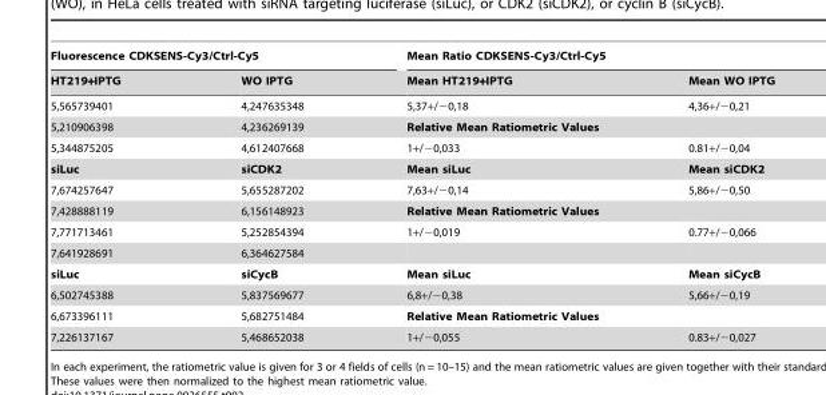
<table><thead><tr><td colspan="2">Fluorescence CDKSENS-Cy3/Ctrl-Cy5</td><td colspan="2">Mean Ratio CDKSENS-Cy3/Ctrl-Cy5</td></tr><tr><td>HT219+IPTG</td><td>WO IPTG</td><td>Mean HT219+IPTG</td><td>Mean WO IPTG</td></tr></thead><tbody><tr><td>5,565739401</td><td>4,247635348</td><td>5,37+/−0,18</td><td>4,36+/−0,21</td></tr><tr><td>5,210906398</td><td>4,236269139</td><td colspan="2">Relative Mean Ratiometric Values</td></tr><tr><td>5,344875205</td><td>4,612407668</td><td>1+/−0,033</td><td>0.81+/−0,04</td></tr><tr><td>siLuc</td><td>siCDK2</td><td>Mean siLuc</td><td>Mean siCDK2</td></tr><tr><td>7,674257647</td><td>5,655287202</td><td>7,63+/−0,14</td><td>5,86+/−0,50</td></tr><tr><td>7,428888119</td><td>6,156148923</td><td colspan="2">Relative Mean Ratiometric Values</td></tr><tr><td>7,771713461</td><td>5,252854394</td><td>1+/−0,019</td><td>0.77+/−0,066</td></tr><tr><td>7,641928691</td><td>6,364627584</td><td></td><td></td></tr><tr><td>siLuc</td><td>siCycB</td><td>Mean siLuc</td><td>Mean siCycB</td></tr><tr><td>6,502745388</td><td>5,837569677</td><td>6,8+/−0,38</td><td>5,66+/−0,19</td></tr><tr><td>6,673396111</td><td>5,682751484</td><td colspan="2">Relative Mean Ratiometric Values</td></tr><tr><td>7,226137167</td><td>5,468652038</td><td>1+/−0,055</td><td>0.83+/−0,027</td></tr></tbody></table>